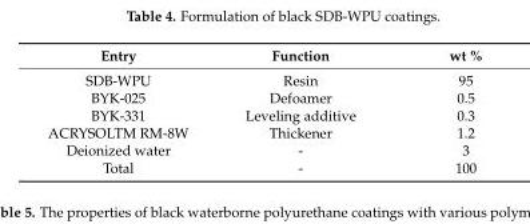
<table><thead><tr><td>Entry</td><td>Function</td><td>wt %</td></tr></thead><tbody><tr><td>SDB-WPU</td><td>Resin</td><td>95</td></tr><tr><td>BYK-025</td><td>Defoamer</td><td>0.5</td></tr><tr><td>BYK-331</td><td>Leveling additive</td><td>0.3</td></tr><tr><td>ACRYSOLTM RM-8W</td><td>Thickener</td><td>1.2</td></tr><tr><td>Deionized water</td><td>-</td><td>3</td></tr><tr><td>Total</td><td>-</td><td>100</td></tr></tbody></table>